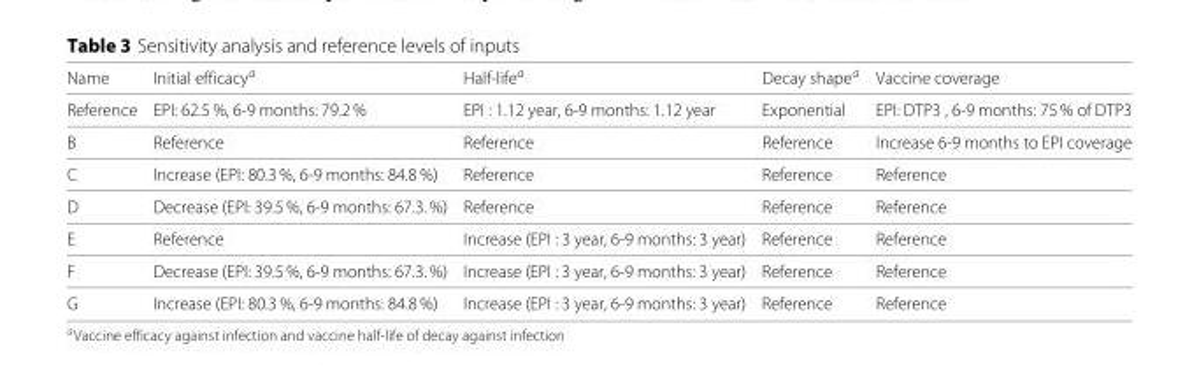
<table><thead><tr><td>Name</td><td>Initial efficacy<sup>a</sup></td><td>Half-life<sup>a</sup></td><td>Decay shape<sup>a</sup></td><td>Vaccine coverage</td></tr></thead><tbody><tr><td>Reference</td><td>EPI: 62.5 %, 6-9 months: 79.2 %</td><td>EPI : 1.12 year, 6-9 months: 1.12 year</td><td>Exponential</td><td>EPI: DTP3 , 6-9 months: 75 % of DTP3</td></tr><tr><td>B</td><td>Reference</td><td>Reference</td><td>Reference</td><td>Increase 6-9 months to EPI coverage</td></tr><tr><td>C</td><td>Increase (EPI: 80.3 %, 6-9 months: 84.8 %)</td><td>Reference</td><td>Reference</td><td>Reference</td></tr><tr><td>D</td><td>Decrease (EPI: 39.5 %, 6-9 months: 67.3. %)</td><td>Reference</td><td>Reference</td><td>Reference</td></tr><tr><td>E</td><td>Reference</td><td>Increase (EPI : 3 year, 6-9 months: 3 year)</td><td>Reference</td><td>Reference</td></tr><tr><td>F</td><td>Decrease (EPI: 39.5 %, 6-9 months: 67.3. %)</td><td>Increase (EPI : 3 year, 6-9 months: 3 year)</td><td>Reference</td><td>Reference</td></tr><tr><td>G</td><td>Increase (EPI: 80.3 %, 6-9 months: 84.8 %)</td><td>Increase (EPI : 3 year, 6-9 months: 3 year)</td><td>Reference</td><td>Reference</td></tr></tbody></table>